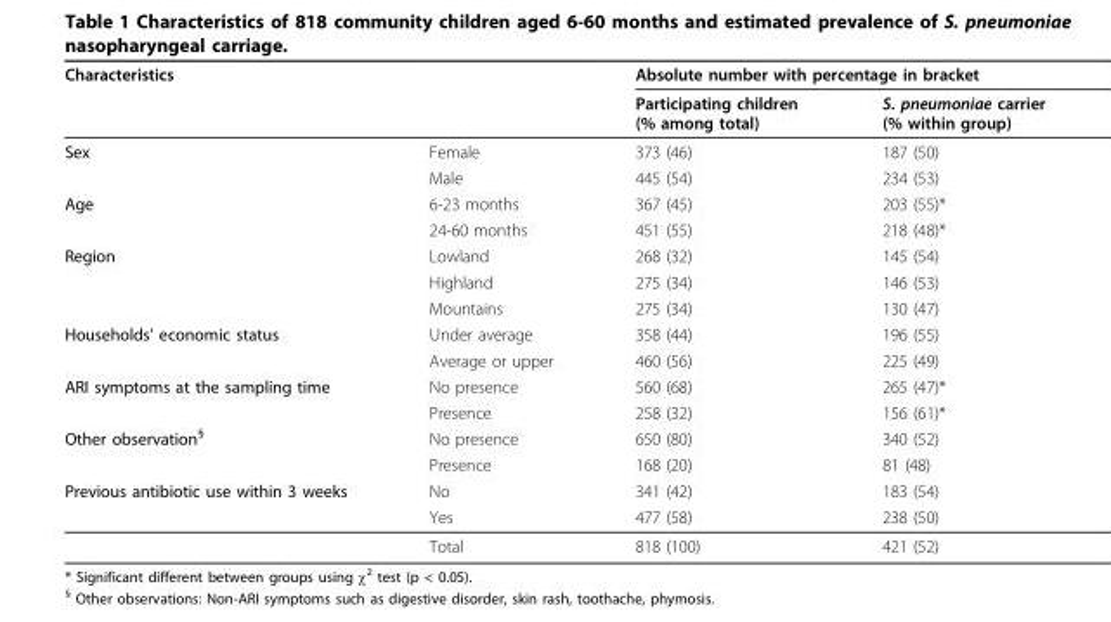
<table><thead><tr><td rowspan="2">Characteristics</td><td rowspan="2"></td><td colspan="2">Absolute number with percentage in bracket</td></tr><tr><td>Participating children (% among total)</td><td>S. pneumoniae carrier (% within group)</td></tr></thead><tbody><tr><td rowspan="2">Sex</td><td>Female</td><td>373 (46)</td><td>187 (50)</td></tr><tr><td>Male</td><td>445 (54)</td><td>234 (53)</td></tr><tr><td rowspan="2">Age</td><td>6-23 months</td><td>367 (45)</td><td>203 (55)*</td></tr><tr><td>24-60 months</td><td>451 (55)</td><td>218 (48)*</td></tr><tr><td rowspan="3">Region</td><td>Lowland</td><td>268 (32)</td><td>145 (54)</td></tr><tr><td>Highland</td><td>275 (34)</td><td>146 (53)</td></tr><tr><td>Mountains</td><td>275 (34)</td><td>130 (47)</td></tr><tr><td rowspan="2">Households’ economic status</td><td>Under average</td><td>358 (44)</td><td>196 (55)</td></tr><tr><td>Average or upper</td><td>460 (56)</td><td>225 (49)</td></tr><tr><td rowspan="2">ARI symptoms at the sampling time</td><td>No presence</td><td>560 (68)</td><td>265 (47)*</td></tr><tr><td>Presence</td><td>258 (32)</td><td>156 (61)*</td></tr><tr><td rowspan="2">Other observation<sup>§</sup></td><td>No presence</td><td>650 (80)</td><td>340 (52)</td></tr><tr><td>Presence</td><td>168 (20)</td><td>81 (48)</td></tr><tr><td rowspan="3">Previous antibiotic use within 3 weeks</td><td>No</td><td>341 (42)</td><td>183 (54)</td></tr><tr><td>Yes</td><td>477 (58)</td><td>238 (50)</td></tr><tr><td>Total</td><td>818 (100)</td><td>421 (52)</td></tr></tbody></table>